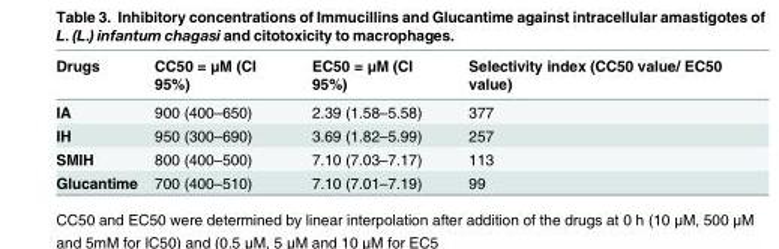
<table><thead><tr><td>Drugs</td><td>CC50 = μM (CI 95%)</td><td>EC50 = μM (CI 95%)</td><td>Selectivity index (CC50 value/ EC50 value)</td></tr></thead><tbody><tr><td>IA</td><td>900 (400–650)</td><td>2.39 (1.58–5.58)</td><td>377</td></tr><tr><td>IH</td><td>950 (300–690)</td><td>3.69 (1.82–5.99)</td><td>257</td></tr><tr><td>SMIH</td><td>800 (400–500)</td><td>7.10 (7.03–7.17)</td><td>113</td></tr><tr><td>Glucantime</td><td>700 (400–510)</td><td>7.10 (7.01–7.19)</td><td>99</td></tr></tbody></table>